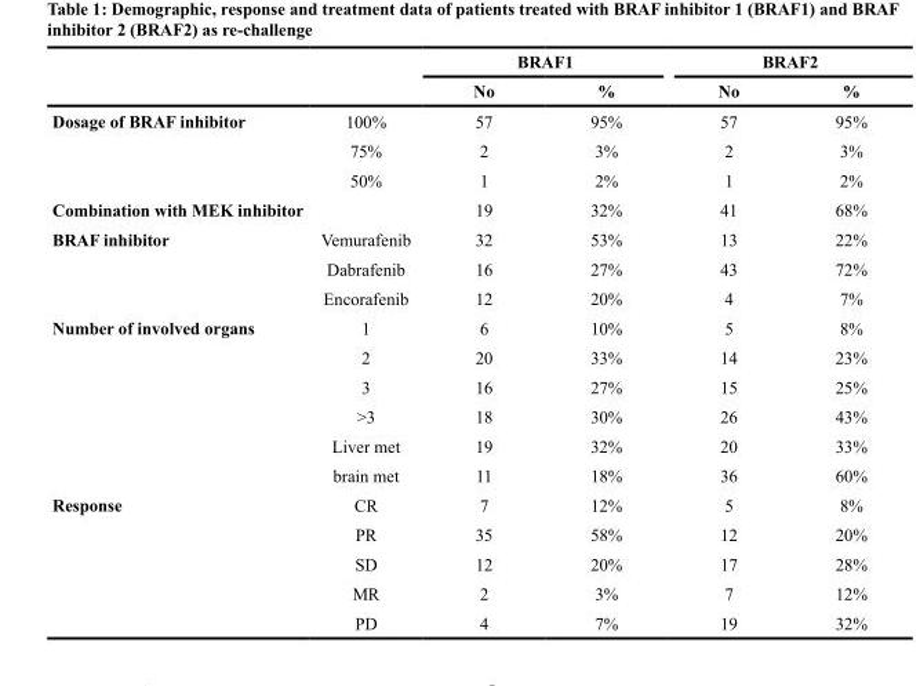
<table><thead><tr><td rowspan="2"></td><td rowspan="2"></td><td colspan="2">BRAF1</td><td colspan="2">BRAF2</td></tr><tr><td>No</td><td>%</td><td>No</td><td>%</td></tr></thead><tbody><tr><td rowspan="3">Dosage of BRAF inhibitor</td><td>100%</td><td>57</td><td>95%</td><td>57</td><td>95%</td></tr><tr><td>75%</td><td>2</td><td>3%</td><td>2</td><td>3%</td></tr><tr><td>50%</td><td>1</td><td>2%</td><td>1</td><td>2%</td></tr><tr><td>Combination with MEK inhibitor</td><td></td><td>19</td><td>32%</td><td>41</td><td>68%</td></tr><tr><td rowspan="3">BRAF inhibitor</td><td>Vemurafenib</td><td>32</td><td>53%</td><td>13</td><td>22%</td></tr><tr><td>Dabrafenib</td><td>16</td><td>27%</td><td>43</td><td>72%</td></tr><tr><td>Encorafenib</td><td>12</td><td>20%</td><td>4</td><td>7%</td></tr><tr><td rowspan="6">Number of involved organs</td><td>1</td><td>6</td><td>10%</td><td>5</td><td>8%</td></tr><tr><td>2</td><td>20</td><td>33%</td><td>14</td><td>23%</td></tr><tr><td>3</td><td>16</td><td>27%</td><td>15</td><td>25%</td></tr><tr><td>&gt;3</td><td>18</td><td>30%</td><td>26</td><td>43%</td></tr><tr><td>Liver met</td><td>19</td><td>32%</td><td>20</td><td>33%</td></tr><tr><td>brain met</td><td>11</td><td>18%</td><td>36</td><td>60%</td></tr><tr><td rowspan="5">Response</td><td>CR</td><td>7</td><td>12%</td><td>5</td><td>8%</td></tr><tr><td>PR</td><td>35</td><td>58%</td><td>12</td><td>20%</td></tr><tr><td>SD</td><td>12</td><td>20%</td><td>17</td><td>28%</td></tr><tr><td>MR</td><td>2</td><td>3%</td><td>7</td><td>12%</td></tr><tr><td>PD</td><td>4</td><td>7%</td><td>19</td><td>32%</td></tr></tbody></table>